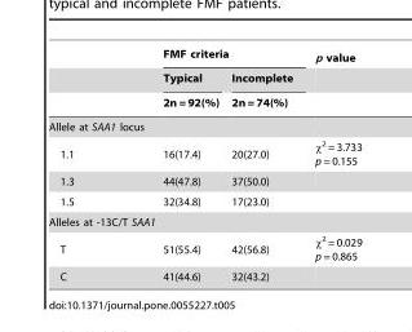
<table><thead><tr><td rowspan="3"></td><td colspan="2">FMF criteria</td><td rowspan="3">p value</td></tr><tr><td rowspan="2">Typical 2n = 92(%)</td><td rowspan="2">Incomplete 2n = 74(%)</td></tr><tr></tr></thead><tbody><tr><td colspan="4">Allele at SAA1 locus</td></tr><tr><td>1.1</td><td>16(17.4)</td><td>20(27.0)</td><td>χ<sup>2</sup> = 3.733 p = 0.155</td></tr><tr><td>1.3</td><td>44(47.8)</td><td>37(50.0)</td><td></td></tr><tr><td>1.5</td><td>32(34.8)</td><td>17(23.0)</td><td></td></tr><tr><td colspan="4">Alleles at -13C/T SAA1</td></tr><tr><td>T</td><td>51(55.4)</td><td>42(56.8)</td><td>χ<sup>2</sup> = 0.029 p = 0.865</td></tr><tr><td>C</td><td>41(44.6)</td><td>32(43.2)</td><td></td></tr></tbody></table>